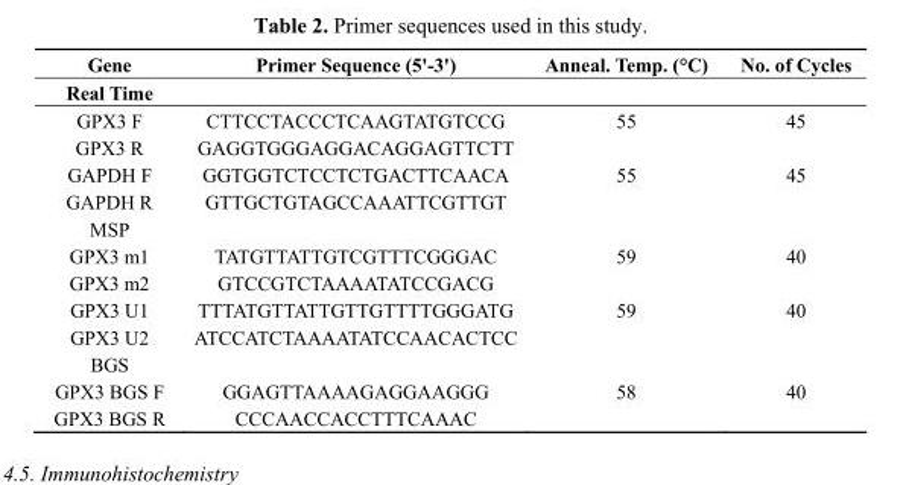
<table><thead><tr><td rowspan="2">Gene Real Time</td><td rowspan="2">Primer Sequence (5&#x27;-3&#x27;)</td><td rowspan="2">Anneal. Temp. (°C)</td><td rowspan="2">No. of Cycles</td></tr><tr></tr></thead><tbody><tr><td>GPX3 F</td><td>CTTCCTACCCTCAAGTATGTCCG</td><td>55</td><td>45</td></tr><tr><td>GPX3 R</td><td>GAGGTGGGAGGACAGGAGTTCTT</td><td></td><td></td></tr><tr><td>GAPDH F</td><td>GGTGGTCTCCTCTGACTTCAACA</td><td>55</td><td>45</td></tr><tr><td>GAPDH R</td><td>GTTGCTGTAGCCAAATTCGTTGT</td><td></td><td></td></tr><tr><td colspan="4">MSP</td></tr><tr><td>GPX3 m1</td><td>TATGTTATTGTCGTTTCGGGAC</td><td>59</td><td>40</td></tr><tr><td>GPX3 m2</td><td>GTCCGTCTAAAATATCCGACG</td><td></td><td></td></tr><tr><td>GPX3 U1</td><td>TTTATGTTATTGTTGTTTTGGGATG</td><td>59</td><td>40</td></tr><tr><td>GPX3 U2</td><td>ATCCATCTAAAATATCCAACACTCC</td><td></td><td></td></tr><tr><td colspan="4">BGS</td></tr><tr><td>GPX3 BGS F</td><td>GGAGTTAAAAGAGGAAGGG</td><td>58</td><td>40</td></tr><tr><td>GPX3 BGS R</td><td>CCCAACCACCTTTCAAAC</td><td></td><td></td></tr></tbody></table>